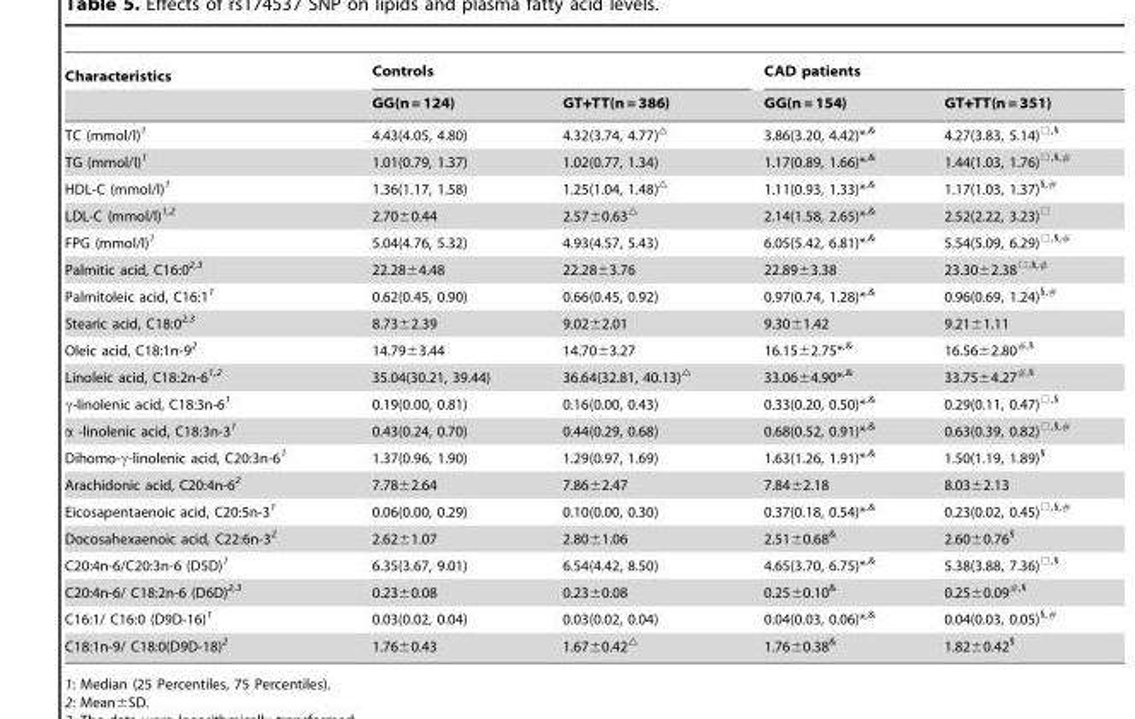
<table><thead><tr><td rowspan="2">Characteristics</td><td colspan="2">Controls</td><td colspan="2">CAD patients</td></tr><tr><td>GG(n = 124)</td><td>GT+TT(n = 386)</td><td>GG(n = 154)</td><td>GT+TT(n = 351)</td></tr></thead><tbody><tr><td>TC (mmol/l)<sup>1</sup></td><td>4.43(4.05, 4.80)</td><td>4.32(3.74, 4.77)<sup>△</sup></td><td>3.86(3.20, 4.42)*<sup>,&amp;</sup></td><td>4.27(3.83, 5.14)<sup>□,§</sup></td></tr><tr><td>TG (mmol/l)<sup>1</sup></td><td>1.01(0.79, 1.37)</td><td>1.02(0.77, 1.34)</td><td>1.17(0.89, 1.66)*<sup>,&amp;</sup></td><td>1.44(1.03, 1.76)<sup>□,§,#</sup></td></tr><tr><td>HDL-C (mmol/l)<sup>1</sup></td><td>1.36(1.17, 1.58)</td><td>1.25(1.04, 1.48)<sup>△</sup></td><td>1.11(0.93, 1.33)*<sup>,&amp;</sup></td><td>1.17(1.03, 1.37)<sup>§,#</sup></td></tr><tr><td>LDL-C (mmol/l)<sup>1,2</sup></td><td>2.70±0.44</td><td>2.57±0.63<sup>△</sup></td><td>2.14(1.58, 2.65)*<sup>,&amp;</sup></td><td>2.52(2.22, 3.23)<sup>□</sup></td></tr><tr><td>FPG (mmol/l)<sup>1</sup></td><td>5.04(4.76, 5.32)</td><td>4.93(4.57, 5.43)</td><td>6.05(5.42, 6.81)*<sup>,&amp;</sup></td><td>5.54(5.09, 6.29)<sup>□,§,#</sup></td></tr><tr><td>Palmitic acid, C16:0<sup>2,3</sup></td><td>22.28±4.48</td><td>22.28±3.76</td><td>22.89±3.38</td><td>23.30±2.38<sup>□,§,#</sup></td></tr><tr><td>Palmitoleic acid, C16:1<sup>1</sup></td><td>0.62(0.45, 0.90)</td><td>0.66(0.45, 0.92)</td><td>0.97(0.74, 1.28)*<sup>,&amp;</sup></td><td>0.96(0.69, 1.24)<sup>§,#</sup></td></tr><tr><td>Stearic acid, C18:0<sup>2,3</sup></td><td>8.73±2.39</td><td>9.02±2.01</td><td>9.30±1.42</td><td>9.21±1.11</td></tr><tr><td>Oleic acid, C18:1n-9<sup>2</sup></td><td>14.79±3.44</td><td>14.70±3.27</td><td>16.15±2.75*<sup>,&amp;</sup></td><td>16.56±2.80<sup>#,§</sup></td></tr><tr><td>Linoleic acid, C18:2n-6<sup>1,2</sup></td><td>35.04(30.21, 39.44)</td><td>36.64(32.81, 40.13)<sup>△</sup></td><td>33.06±4.90*<sup>,&amp;</sup></td><td>33.75±4.27<sup>#,§</sup></td></tr><tr><td>γ-linolenic acid, C18:3n-6<sup>1</sup></td><td>0.19(0.00, 0.81)</td><td>0.16(0.00, 0.43)</td><td>0.33(0.20, 0.50)*<sup>,&amp;</sup></td><td>0.29(0.11, 0.47)<sup>□,§</sup></td></tr><tr><td>α -linolenic acid, C18:3n-3<sup>1</sup></td><td>0.43(0.24, 0.70)</td><td>0.44(0.29, 0.68)</td><td>0.68(0.52, 0.91)*<sup>,&amp;</sup></td><td>0.63(0.39, 0.82)<sup>□,§,#</sup></td></tr><tr><td>Dihomo-γ-linolenic acid, C20:3n-6<sup>1</sup></td><td>1.37(0.96, 1.90)</td><td>1.29(0.97, 1.69)</td><td>1.63(1.26, 1.91)*<sup>,&amp;</sup></td><td>1.50(1.19, 1.89)<sup>§</sup></td></tr><tr><td>Arachidonic acid, C20:4n-6<sup>2</sup></td><td>7.78±2.64</td><td>7.86±2.47</td><td>7.84±2.18</td><td>8.03±2.13</td></tr><tr><td>Eicosapentaenoic acid, C20:5n-3<sup>1</sup></td><td>0.06(0.00, 0.29)</td><td>0.10(0.00, 0.30)</td><td>0.37(0.18, 0.54)*<sup>,&amp;</sup></td><td>0.23(0.02, 0.45)<sup>□,§,#</sup></td></tr><tr><td>Docosahexaenoic acid, C22:6n-3<sup>2</sup></td><td>2.62±1.07</td><td>2.80±1.06</td><td>2.51±0.68<sup>&amp;</sup></td><td>2.60±0.76<sup>§</sup></td></tr><tr><td>C20:4n-6/C20:3n-6 (D5D)<sup>1</sup></td><td>6.35(3.67, 9.01)</td><td>6.54(4.42, 8.50)</td><td>4.65(3.70, 6.75)*<sup>,&amp;</sup></td><td>5.38(3.88, 7.36)<sup>□,§</sup></td></tr><tr><td>C20:4n-6/ C18:2n-6 (D6D)<sup>2,3</sup></td><td>0.23±0.08</td><td>0.23±0.08</td><td>0.25±0.10<sup>&amp;</sup></td><td>0.25±0.09<sup>#,§</sup></td></tr><tr><td>C16:1/ C16:0 (D9D-16)<sup>1</sup></td><td>0.03(0.02, 0.04)</td><td>0.03(0.02, 0.04)</td><td>0.04(0.03, 0.06)*<sup>,&amp;</sup></td><td>0.04(0.03, 0.05)<sup>§,#</sup></td></tr><tr><td>C18:1n-9/ C18:0(D9D-18)<sup>2</sup></td><td>1.76±0.43</td><td>1.67±0.42<sup>△</sup></td><td>1.76±0.38<sup>&amp;</sup></td><td>1.82±0.42<sup>§</sup></td></tr></tbody></table>